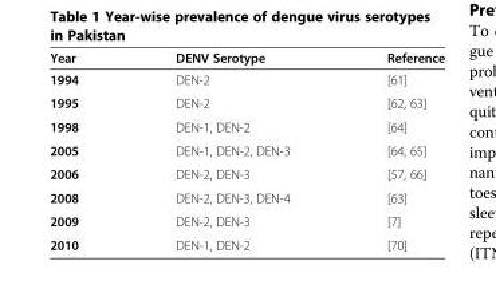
<table><thead><tr><td>Year</td><td>DENV Serotype</td><td>Reference</td></tr></thead><tbody><tr><td>1994</td><td>DEN-2</td><td>[61]</td></tr><tr><td>1995</td><td>DEN-2</td><td>[62, 63]</td></tr><tr><td>1998</td><td>DEN-1, DEN-2</td><td>[64]</td></tr><tr><td>2005</td><td>DEN-1, DEN-2, DEN-3</td><td>[64, 65]</td></tr><tr><td>2006</td><td>DEN-2, DEN-3</td><td>[57, 66]</td></tr><tr><td>2008</td><td>DEN-2, DEN-3, DEN-4</td><td>[63]</td></tr><tr><td>2009</td><td>DEN-2, DEN-3</td><td>[7]</td></tr><tr><td>2010</td><td>DEN-1, DEN-2</td><td>[70]</td></tr></tbody></table>